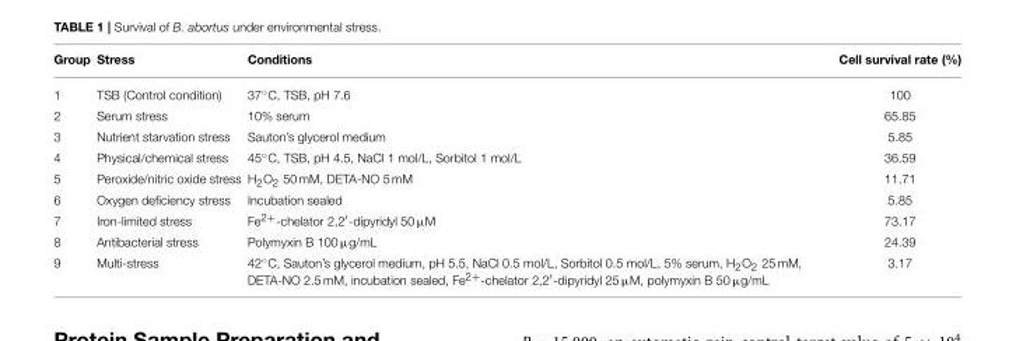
<table><thead><tr><td>Group</td><td>Stress</td><td>Conditions</td><td>Cell survival rate (%)</td></tr></thead><tbody><tr><td>1</td><td>TSB (Control condition)</td><td>37◦C, TSB, pH 7.6</td><td>100</td></tr><tr><td>2</td><td>Serum stress</td><td>10% serum</td><td>65.85</td></tr><tr><td>3</td><td>Nutrient starvation stress</td><td>Sauton’s glycerol medium</td><td>5.85</td></tr><tr><td>4</td><td>Physical/chemical stress</td><td>45◦C, TSB, pH 4.5, NaCl 1 mol/L, Sorbitol 1 mol/L</td><td>36.59</td></tr><tr><td>5</td><td>Peroxide/nitric oxide stress</td><td>H<sub>2</sub>O<sub>2</sub> 50 mM, DETA-NO 5 mM</td><td>11.71</td></tr><tr><td>6</td><td>Oxygen deficiency stress</td><td>Incubation sealed</td><td>5.85</td></tr><tr><td>7</td><td>Iron-limited stress</td><td>Fe<sup>2+</sup>-chelator 2,2′-dipyridyl 50 µM</td><td>73.17</td></tr><tr><td>8</td><td>Antibacterial stress</td><td>Polymyxin B 100 µg/mL</td><td>24.39</td></tr><tr><td>9</td><td>Multi-stress</td><td>42◦C, Sauton’s glycerol medium, pH 5.5, NaCl 0.5 mol/L, Sorbitol 0.5 mol/L, 5% serum, H2O2 25 mM, DETA-NO 2.5 mM, incubation sealed, Fe2+-chelator 2,2′-dipyridyl 25 µM, polymyxin B 50 µg/mL</td><td>3.17</td></tr></tbody></table>